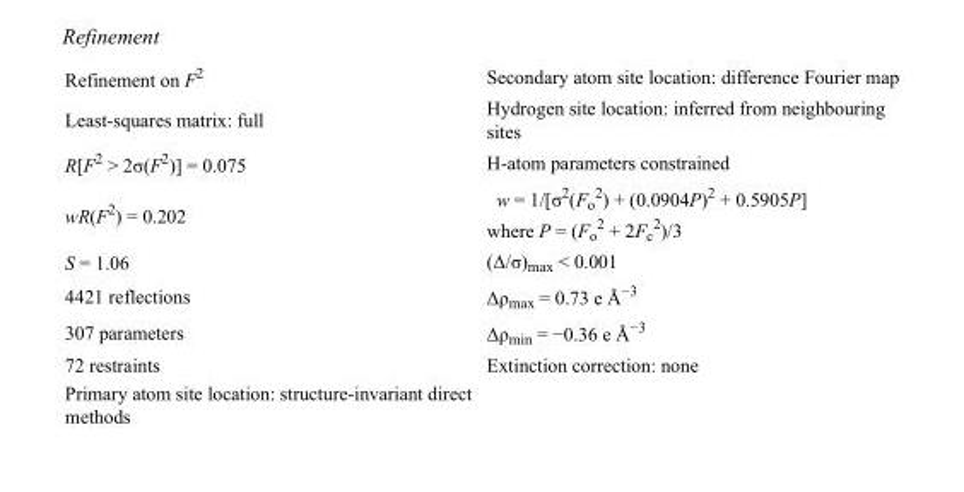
<table><tbody><tr><td>Refinement on F<sup>2</sup></td><td>Secondary atom site location: difference Fourier map</td></tr><tr><td>Least-squares matrix: full</td><td>Hydrogen site location: inferred from neighbouring sites</td></tr><tr><td>R[F<sup>2</sup> &gt; 2σ(F<sup>2</sup>)] = 0.075</td><td>H-atom parameters constrained</td></tr><tr><td>wR(F<sup>2</sup>) = 0.202</td><td>w = 1/[σ<sup>2</sup>(F<sub>o</sub> <sup>2</sup>) + (0.0904P)<sup>2</sup> + 0.5905P] where P = (F<sub>o</sub> <sup>2</sup> + 2F<sub>c</sub> <sup>2</sup>)/3</td></tr><tr><td>S = 1.06</td><td>(Δ/σ)<sub>max</sub> &lt; 0.001</td></tr><tr><td>4421 reflections</td><td>Δρ<sub>max</sub> = 0.73 e Å<sup>−3</sup></td></tr><tr><td>307 parameters</td><td>Δρ<sub>min</sub> = −0.36 e Å<sup>−3</sup></td></tr><tr><td>72 restraints</td><td>Extinction correction: none</td></tr><tr><td>Primary atom site location: structure-invariant direct methods</td><td></td></tr></tbody></table>